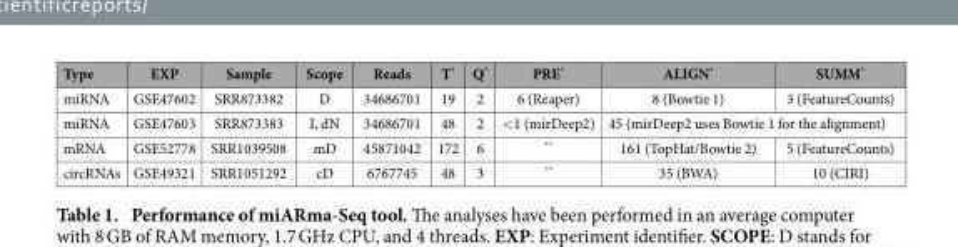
<table><thead><tr><td>Type</td><td>EXP</td><td>Sample</td><td>Scope</td><td>Reads</td><td>T*</td><td>Q*</td><td>PRE*</td><td>ALIGN*</td><td>SUMM*</td></tr></thead><tbody><tr><td>miRNA</td><td>GSE47602</td><td>SRR873382</td><td>D</td><td>34686701</td><td>19</td><td>2</td><td>6 (Reaper)</td><td>8 (Bowtie 1)</td><td>3 (FeatureCounts)</td></tr><tr><td>miRNA</td><td>GSE47603</td><td>SRR873383</td><td>I, dN</td><td>34686701</td><td>48</td><td>2</td><td>&lt; 1 (mirDeep2)</td><td colspan="2">45 (mirDeep2 uses Bowtie 1 for the alignment)</td></tr><tr><td>mRNA</td><td>GSE52778</td><td>SRR1039508</td><td>mD</td><td>45871042</td><td>172</td><td>6</td><td>**</td><td>161 (TopHat/Bowtie 2)</td><td>5 (FeatureCounts)</td></tr><tr><td>circRNAs</td><td>GSE49321</td><td>SRR1051292</td><td>cD</td><td>6767745</td><td>48</td><td>3</td><td>**</td><td>35 (BWA)</td><td>10 (CIRI)</td></tr></tbody></table>